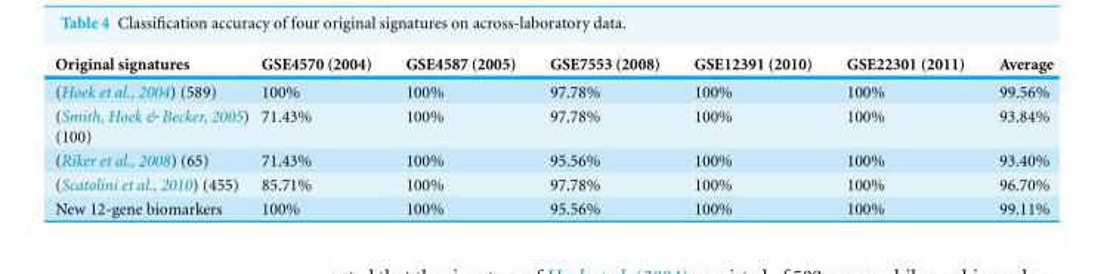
<table><thead><tr><td>Original signatures</td><td>GSE4570 (2004)</td><td>GSE4587 (2005)</td><td>GSE7553 (2008)</td><td>GSE12391 (2010)</td><td>GSE22301 (2011)</td><td>Average</td></tr></thead><tbody><tr><td>(Hoek et al., 2004) (589)</td><td>100%</td><td>100%</td><td>97.78%</td><td>100%</td><td>100%</td><td>99.56%</td></tr><tr><td>(Smith, Hoek &amp; Becker, 2005) (100)</td><td>71.43%</td><td>100%</td><td>97.78%</td><td>100%</td><td>100%</td><td>93.84%</td></tr><tr><td>(Riker et al., 2008) (65)</td><td>71.43%</td><td>100%</td><td>95.56%</td><td>100%</td><td>100%</td><td>93.40%</td></tr><tr><td>(Scatolini et al., 2010) (455)</td><td>85.71%</td><td>100%</td><td>97.78%</td><td>100%</td><td>100%</td><td>96.70%</td></tr><tr><td>New 12-gene biomarkers</td><td>100%</td><td>100%</td><td>95.56%</td><td>100%</td><td>100%</td><td>99.11%</td></tr></tbody></table>